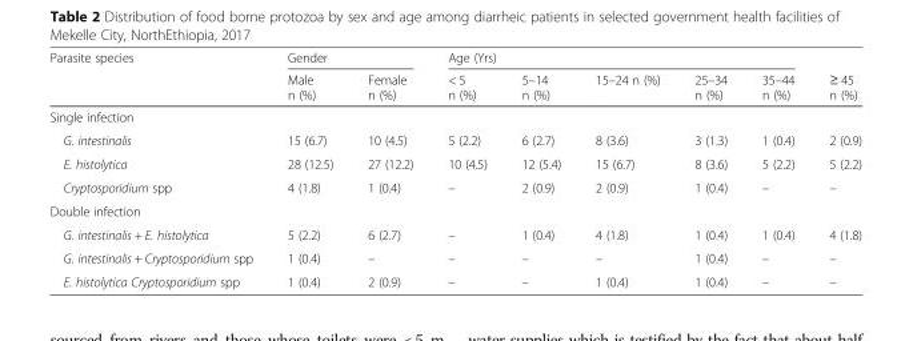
<table><thead><tr><td rowspan="2">Parasite species</td><td colspan="2">Gender</td><td colspan="5">Age (Yrs)</td><td rowspan="2">≥ 45 n (%)</td></tr><tr><td>Male n (%)</td><td>Female n (%)</td><td>&lt; 5 n (%)</td><td>5–14 n (%)</td><td>15–24 n (%)</td><td>25–34 n (%)</td><td>35–44 n (%)</td></tr></thead><tbody><tr><td colspan="9">Single infection</td></tr><tr><td>G. intestinalis</td><td>15 (6.7)</td><td>10 (4.5)</td><td>5 (2.2)</td><td>6 (2.7)</td><td>8 (3.6)</td><td>3 (1.3)</td><td>1 (0.4)</td><td>2 (0.9)</td></tr><tr><td>E. histolytica</td><td>28 (12.5)</td><td>27 (12.2)</td><td>10 (4.5)</td><td>12 (5.4)</td><td>15 (6.7)</td><td>8 (3.6)</td><td>5 (2.2)</td><td>5 (2.2)</td></tr><tr><td>Cryptosporidium spp</td><td>4 (1.8)</td><td>1 (0.4)</td><td>–</td><td>2 (0.9)</td><td>2 (0.9)</td><td>1 (0.4)</td><td>–</td><td>–</td></tr><tr><td colspan="9">Double infection</td></tr><tr><td>G. intestinalis + E. histolytica</td><td>5 (2.2)</td><td>6 (2.7)</td><td>–</td><td>1 (0.4)</td><td>4 (1.8)</td><td>1 (0.4)</td><td>1 (0.4)</td><td>4 (1.8)</td></tr><tr><td>G. intestinalis + Cryptosporidium spp</td><td>1 (0.4)</td><td>–</td><td>–</td><td>–</td><td>–</td><td>1 (0.4)</td><td>–</td><td>–</td></tr><tr><td>E. histolytica Cryptosporidium spp</td><td>1 (0.4)</td><td>2 (0.9)</td><td>–</td><td>–</td><td>1 (0.4)</td><td>1 (0.4)</td><td>–</td><td>–</td></tr></tbody></table>